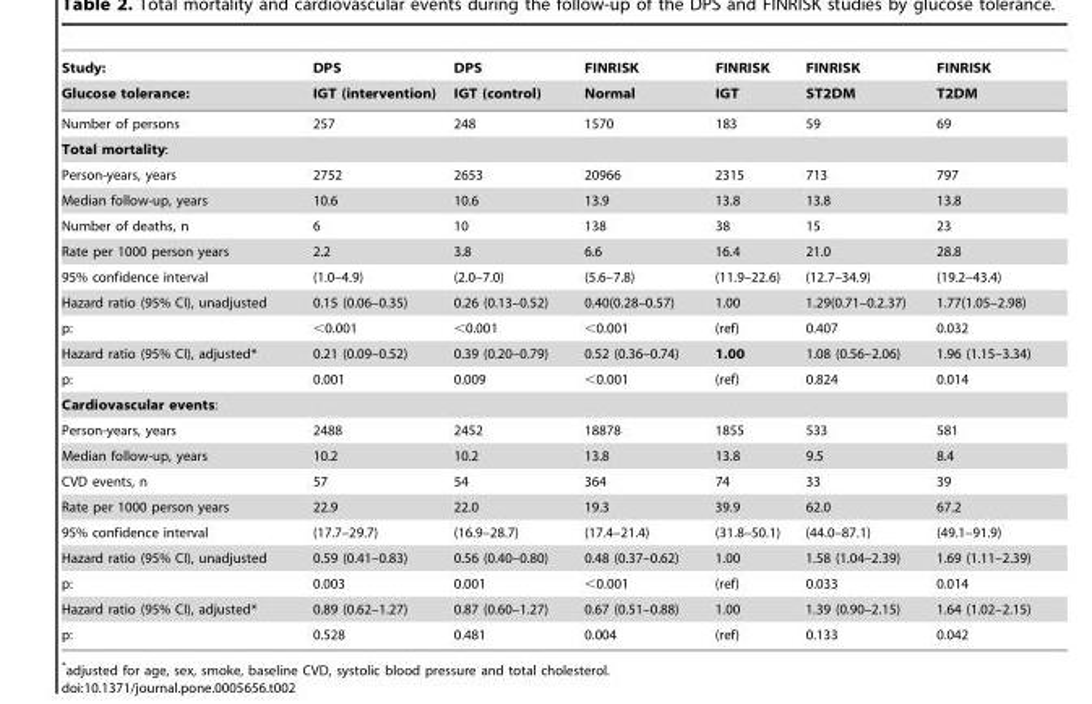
<table><thead><tr><td rowspan="2">Study: Glucose tolerance:</td><td rowspan="2">DPS IGT (intervention)</td><td rowspan="2">DPS IGT (control)</td><td rowspan="2">FINRISK Normal</td><td rowspan="2">FINRISK IGT</td><td rowspan="2">FINRISK ST2DM</td><td rowspan="2">FINRISK T2DM</td></tr><tr></tr></thead><tbody><tr><td>Number of persons</td><td>257</td><td>248</td><td>1570</td><td>183</td><td>59</td><td>69</td></tr><tr><td colspan="7">Total mortality:</td></tr><tr><td>Person-years, years</td><td>2752</td><td>2653</td><td>20966</td><td>2315</td><td>713</td><td>797</td></tr><tr><td>Median follow-up, years</td><td>10.6</td><td>10.6</td><td>13.9</td><td>13.8</td><td>13.8</td><td>13.8</td></tr><tr><td>Number of deaths, n</td><td>6</td><td>10</td><td>138</td><td>38</td><td>15</td><td>23</td></tr><tr><td>Rate per 1000 person years</td><td>2.2</td><td>3.8</td><td>6.6</td><td>16.4</td><td>21.0</td><td>28.8</td></tr><tr><td>95% confidence interval</td><td>(1.0–4.9)</td><td>(2.0–7.0)</td><td>(5.6–7.8)</td><td>(11.9–22.6)</td><td>(12.7–34.9)</td><td>(19.2–43.4)</td></tr><tr><td>Hazard ratio (95% CI), unadjusted</td><td>0.15 (0.06–0.35)</td><td>0.26 (0.13–0.52)</td><td>0.40(0.28–0.57)</td><td>1.00</td><td>1.29(0.71–0.2.37)</td><td>1.77(1.05–2.98)</td></tr><tr><td>p:</td><td>&lt;0.001</td><td>&lt;0.001</td><td>&lt;0.001</td><td>(ref)</td><td>0.407</td><td>0.032</td></tr><tr><td>Hazard ratio (95% CI), adjusted*</td><td>0.21 (0.09–0.52)</td><td>0.39 (0.20–0.79)</td><td>0.52 (0.36–0.74)</td><td>1.00</td><td>1.08 (0.56–2.06)</td><td>1.96 (1.15–3.34)</td></tr><tr><td>p:</td><td>0.001</td><td>0.009</td><td>&lt;0.001</td><td>(ref)</td><td>0.824</td><td>0.014</td></tr><tr><td colspan="7">Cardiovascular events:</td></tr><tr><td>Person-years, years</td><td>2488</td><td>2452</td><td>18878</td><td>1855</td><td>533</td><td>581</td></tr><tr><td>Median follow-up, years</td><td>10.2</td><td>10.2</td><td>13.8</td><td>13.8</td><td>9.5</td><td>8.4</td></tr><tr><td>CVD events, n</td><td>57</td><td>54</td><td>364</td><td>74</td><td>33</td><td>39</td></tr><tr><td>Rate per 1000 person years</td><td>22.9</td><td>22.0</td><td>19.3</td><td>39.9</td><td>62.0</td><td>67.2</td></tr><tr><td>95% confidence interval</td><td>(17.7–29.7)</td><td>(16.9–28.7)</td><td>(17.4–21.4)</td><td>(31.8–50.1)</td><td>(44.0–87.1)</td><td>(49.1–91.9)</td></tr><tr><td>Hazard ratio (95% CI), unadjusted</td><td>0.59 (0.41–0.83)</td><td>0.56 (0.40–0.80)</td><td>0.48 (0.37–0.62)</td><td>1.00</td><td>1.58 (1.04–2.39)</td><td>1.69 (1.11–2.39)</td></tr><tr><td>p:</td><td>0.003</td><td>0.001</td><td>&lt;0.001</td><td>(ref)</td><td>0.033</td><td>0.014</td></tr><tr><td>Hazard ratio (95% CI), adjusted*</td><td>0.89 (0.62–1.27)</td><td>0.87 (0.60–1.27)</td><td>0.67 (0.51–0.88)</td><td>1.00</td><td>1.39 (0.90–2.15)</td><td>1.64 (1.02–2.15)</td></tr><tr><td>p:</td><td>0.528</td><td>0.481</td><td>0.004</td><td>(ref)</td><td>0.133</td><td>0.042</td></tr></tbody></table>